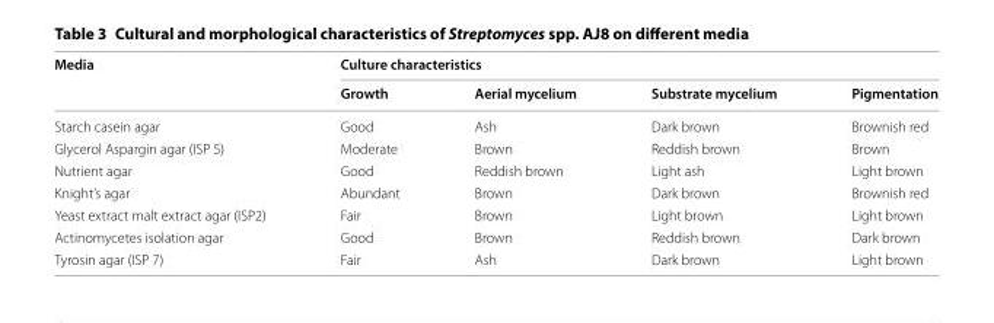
<table><thead><tr><td rowspan="2">Media</td><td colspan="4">Culture characteristics</td></tr><tr><td>Growth</td><td>Aerial mycelium</td><td>Substrate mycelium</td><td>Pigmentation</td></tr></thead><tbody><tr><td>Starch casein agar</td><td>Good</td><td>Ash</td><td>Dark brown</td><td>Brownish red</td></tr><tr><td>Glycerol Aspargin agar (ISP 5)</td><td>Moderate</td><td>Brown</td><td>Reddish brown</td><td>Brown</td></tr><tr><td>Nutrient agar</td><td>Good</td><td>Reddish brown</td><td>Light ash</td><td>Light brown</td></tr><tr><td>Knight’s agar</td><td>Abundant</td><td>Brown</td><td>Dark brown</td><td>Brownish red</td></tr><tr><td>Yeast extract malt extract agar (ISP2)</td><td>Fair</td><td>Brown</td><td>Light brown</td><td>Light brown</td></tr><tr><td>Actinomycetes isolation agar</td><td>Good</td><td>Brown</td><td>Reddish brown</td><td>Dark brown</td></tr><tr><td>Tyrosin agar (ISP 7)</td><td>Fair</td><td>Ash</td><td>Dark brown</td><td>Light brown</td></tr></tbody></table>